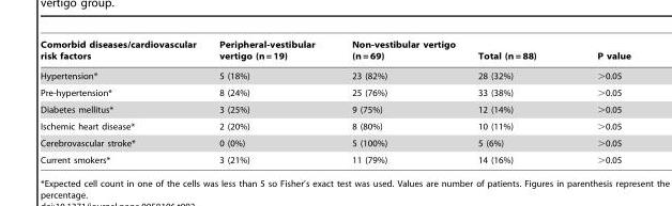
<table><thead><tr><td>Comorbid diseases/cardiovascular risk factors</td><td>Peripheral-vestibular vertigo (n = 19)</td><td>Non-vestibular vertigo (n = 69)</td><td>Total (n = 88)</td><td>P value</td></tr></thead><tbody><tr><td>Hypertension*</td><td>5 (18%)</td><td>23 (82%)</td><td>28 (32%)</td><td>&gt;0.05</td></tr><tr><td>Pre-hypertension*</td><td>8 (24%)</td><td>25 (76%)</td><td>33 (38%)</td><td>&gt;0.05</td></tr><tr><td>Diabetes mellitus*</td><td>3 (25%)</td><td>9 (75%)</td><td>12 (14%)</td><td>&gt;0.05</td></tr><tr><td>Ischemic heart disease*</td><td>2 (20%)</td><td>8 (80%)</td><td>10 (11%)</td><td>&gt;0.05</td></tr><tr><td>Cerebrovascular stroke*</td><td>0 (0%)</td><td>5 (100%)</td><td>5 (6%)</td><td>&gt;0.05</td></tr><tr><td>Current smokers*</td><td>3 (21%)</td><td>11 (79%)</td><td>14 (16%)</td><td>&gt;0.05</td></tr></tbody></table>